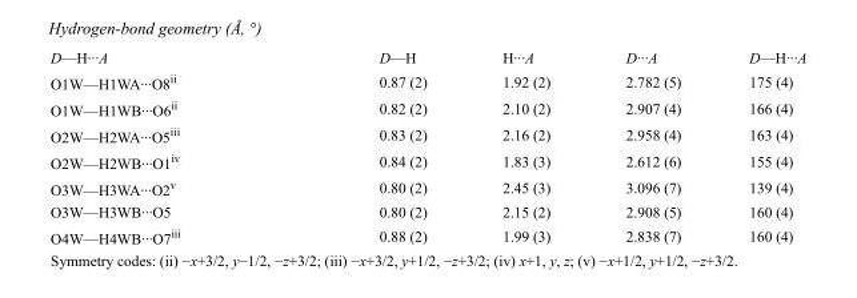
<table><tbody><tr><td>D—H···A</td><td>D—H</td><td>H···A</td><td>D···A</td><td>D—H···A</td></tr><tr><td>O1W—H1WA···O8<sup>ii</sup></td><td>0.87 (2)</td><td>1.92 (2)</td><td>2.782 (5)</td><td>175 (4)</td></tr><tr><td>O1W—H1WB···O6<sup>ii</sup></td><td>0.82 (2)</td><td>2.10 (2)</td><td>2.907 (4)</td><td>166 (4)</td></tr><tr><td>O2W—H2WA···O5<sup>iii</sup></td><td>0.83 (2)</td><td>2.16 (2)</td><td>2.958 (4)</td><td>163 (4)</td></tr><tr><td>O2W—H2WB···O1<sup>iv</sup></td><td>0.84 (2)</td><td>1.83 (3)</td><td>2.612 (6)</td><td>155 (4)</td></tr><tr><td>O3W—H3WA···O2<sup>v</sup></td><td>0.80 (2)</td><td>2.45 (3)</td><td>3.096 (7)</td><td>139 (4)</td></tr><tr><td>O3W—H3WB···O5</td><td>0.80 (2)</td><td>2.15 (2)</td><td>2.908 (5)</td><td>160 (4)</td></tr><tr><td>O4W—H4WB···O7<sup>iii</sup></td><td>0.88 (2)</td><td>1.99 (3)</td><td>2.838 (7)</td><td>160 (4)</td></tr></tbody></table>